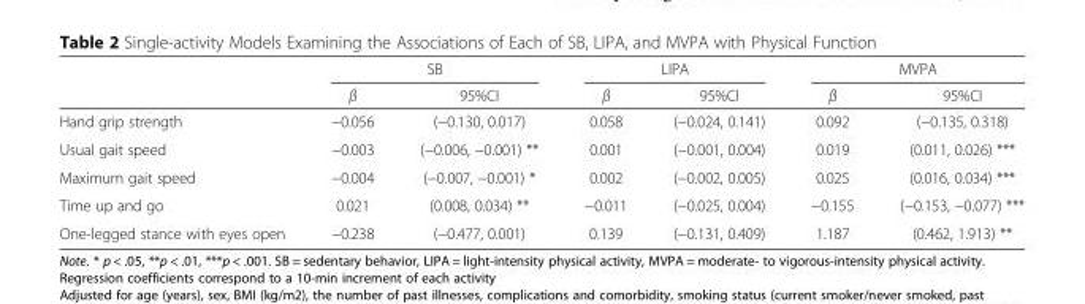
<table><thead><tr><td rowspan="2"></td><td colspan="2">SB</td><td colspan="2">LIPA</td><td colspan="2">MVPA</td></tr><tr><td>β</td><td>95%CI</td><td>β</td><td>95%CI</td><td>β</td><td>95%CI</td></tr></thead><tbody><tr><td>Hand grip strength</td><td>−0.056</td><td>(−0.130, 0.017)</td><td>0.058</td><td>(−0.024, 0.141)</td><td>0.092</td><td>(−0.135, 0.318)</td></tr><tr><td>Usual gait speed</td><td>−0.003</td><td>(−0.006, −0.001) **</td><td>0.001</td><td>(−0.001, 0.004)</td><td>0.019</td><td>(0.011, 0.026) ***</td></tr><tr><td>Maximum gait speed</td><td>−0.004</td><td>(−0.007, −0.001) *</td><td>0.002</td><td>(−0.002, 0.005)</td><td>0.025</td><td>(0.016, 0.034) ***</td></tr><tr><td>Time up and go</td><td>0.021</td><td>(0.008, 0.034) **</td><td>−0.011</td><td>(−0.025, 0.004)</td><td>−0.155</td><td>(−0.153, −0.077) ***</td></tr><tr><td>One-legged stance with eyes open</td><td>−0.238</td><td>(−0.477, 0.001)</td><td>0.139</td><td>(−0.131, 0.409)</td><td>1.187</td><td>(0.462, 1.913) **</td></tr></tbody></table>